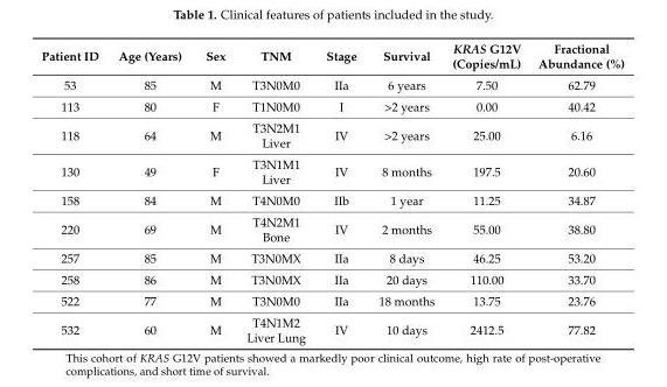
<table><thead><tr><td>Patient ID</td><td>Age (Years)</td><td>Sex</td><td>TNM</td><td>Stage</td><td>Survival</td><td>KRAS G12V (Copies/mL)</td><td>Fractional Abundance (%)</td></tr></thead><tbody><tr><td>53</td><td>85</td><td>M</td><td>T3N0M0</td><td>IIa</td><td>6 years</td><td>7.50</td><td>62.79</td></tr><tr><td>113</td><td>80</td><td>F</td><td>T1N0M0</td><td>I</td><td>&gt;2 years</td><td>0.00</td><td>40.42</td></tr><tr><td>118</td><td>64</td><td>M</td><td>T3N2M1 Liver</td><td>IV</td><td>&gt;2 years</td><td>25.00</td><td>6.16</td></tr><tr><td>130</td><td>49</td><td>F</td><td>T3N1M1 Liver</td><td>IV</td><td>8 months</td><td>197.5</td><td>20.60</td></tr><tr><td>158</td><td>84</td><td>M</td><td>T4N0M0</td><td>IIb</td><td>1 year</td><td>11.25</td><td>34.87</td></tr><tr><td>220</td><td>69</td><td>M</td><td>T4N2M1 Bone</td><td>IV</td><td>2 months</td><td>55.00</td><td>38.80</td></tr><tr><td>257</td><td>85</td><td>M</td><td>T3N0MX</td><td>IIa</td><td>8 days</td><td>46.25</td><td>53.20</td></tr><tr><td>258</td><td>86</td><td>M</td><td>T3N0MX</td><td>IIa</td><td>20 days</td><td>110.00</td><td>33.70</td></tr><tr><td>522</td><td>77</td><td>M</td><td>T3N0M0</td><td>IIa</td><td>18 months</td><td>13.75</td><td>23.76</td></tr><tr><td>532</td><td>60</td><td>M</td><td>T4N1M2 Liver Lung</td><td>IV</td><td>10 days</td><td>2412.5</td><td>77.82</td></tr></tbody></table>